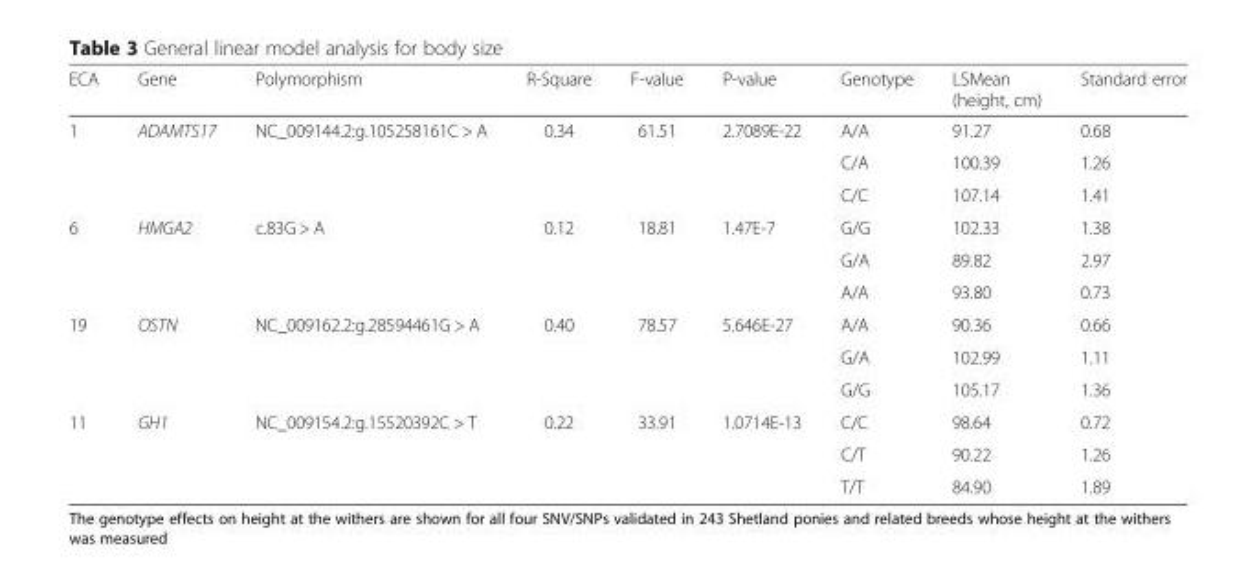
<table><thead><tr><td>ECA</td><td>Gene</td><td>Polymorphism</td><td>R-Square</td><td>F-value</td><td>P-value</td><td>Genotype</td><td>LSMean (height, cm)</td><td>Standard error</td></tr></thead><tbody><tr><td rowspan="3">1</td><td>ADAMTS17</td><td>NC_009144.2:g.105258161C &gt; A</td><td>0.34</td><td>61.51</td><td>2.7089E-22</td><td>A/A</td><td>91.27</td><td>0.68</td></tr><tr><td></td><td></td><td></td><td></td><td></td><td>C/A</td><td>100.39</td><td>1.26</td></tr><tr><td></td><td></td><td></td><td></td><td></td><td>C/C</td><td>107.14</td><td>1.41</td></tr><tr><td rowspan="3">6</td><td>HMGA2</td><td>c.83G &gt; A</td><td>0.12</td><td>18.81</td><td>1.47E-7</td><td>G/G</td><td>102.33</td><td>1.38</td></tr><tr><td></td><td></td><td></td><td></td><td></td><td>G/A</td><td>89.82</td><td>2.97</td></tr><tr><td></td><td></td><td></td><td></td><td></td><td>A/A</td><td>93.80</td><td>0.73</td></tr><tr><td rowspan="3">19</td><td>OSTN</td><td>NC_009162.2:g.28594461G &gt; A</td><td>0.40</td><td>78.57</td><td>5.646E-27</td><td>A/A</td><td>90.36</td><td>0.66</td></tr><tr><td></td><td></td><td></td><td></td><td></td><td>G/A</td><td>102.99</td><td>1.11</td></tr><tr><td></td><td></td><td></td><td></td><td></td><td>G/G</td><td>105.17</td><td>1.36</td></tr><tr><td rowspan="3">11</td><td>GH1</td><td>NC_009154.2:g.15520392C &gt; T</td><td>0.22</td><td>33.91</td><td>1.0714E-13</td><td>C/C</td><td>98.64</td><td>0.72</td></tr><tr><td></td><td></td><td></td><td></td><td></td><td>C/T</td><td>90.22</td><td>1.26</td></tr><tr><td></td><td></td><td></td><td></td><td></td><td>T/T</td><td>84.90</td><td>1.89</td></tr></tbody></table>